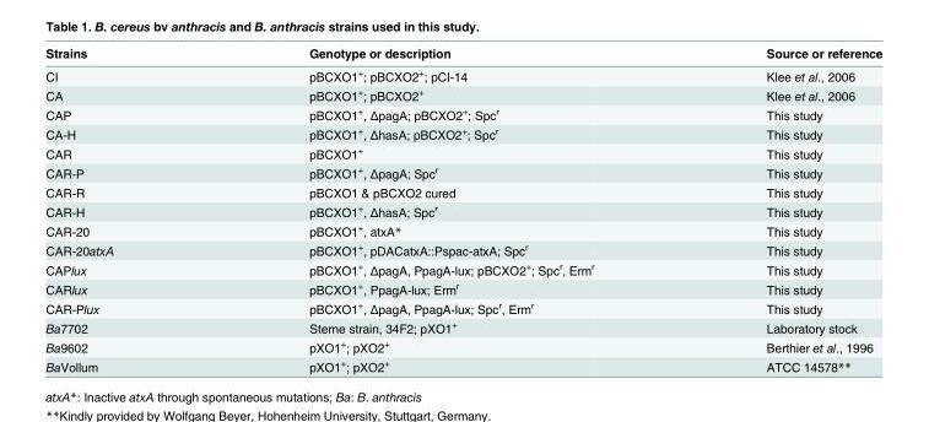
<table><thead><tr><td>Strains</td><td>Genotype or description</td><td>Source or reference</td></tr></thead><tbody><tr><td>CI</td><td>pBCXO1<sup>+</sup>; pBCXO2<sup>+</sup>; pCI-14</td><td>Klee et al., 2006</td></tr><tr><td>CA</td><td>pBCXO1<sup>+</sup>; pBCXO2<sup>+</sup></td><td>Klee et al., 2006</td></tr><tr><td>CAP</td><td>pBCXO1<sup>+</sup>, ΔpagA; pBCXO2<sup>+</sup>; Spc<sup>r</sup></td><td>This study</td></tr><tr><td>CA-H</td><td>pBCXO1<sup>+</sup>, ΔhasA; pBCXO2<sup>+</sup>; Spc<sup>r</sup></td><td>This study</td></tr><tr><td>CAR</td><td>pBCXO1<sup>+</sup></td><td>This study</td></tr><tr><td>CAR-P</td><td>pBCXO1<sup>+</sup>, ΔpagA; Spc<sup>r</sup></td><td>This study</td></tr><tr><td>CAR-R</td><td>pBCXO1 &amp; pBCXO2 cured</td><td>This study</td></tr><tr><td>CAR-H</td><td>pBCXO1<sup>+</sup>, ΔhasA; Spc<sup>r</sup></td><td>This study</td></tr><tr><td>CAR-20</td><td>pBCXO1<sup>+</sup>, atxA*</td><td>This study</td></tr><tr><td>CAR-20atxA</td><td>pBCXO1<sup>+</sup>, pDACatxA::Pspac-atxA; Spc<sup>r</sup></td><td>This study</td></tr><tr><td>CAPlux</td><td>pBCXO1<sup>+</sup>, ΔpagA, PpagA-lux; pBCXO2<sup>+</sup>; Spc<sup>r</sup>, Erm<sup>r</sup></td><td>This study</td></tr><tr><td>CARlux</td><td>pBCXO1<sup>+</sup>, PpagA-lux; Erm<sup>r</sup></td><td>This study</td></tr><tr><td>CAR-Plux</td><td>pBCXO1<sup>+</sup>, ΔpagA, PpagA-lux; Spc<sup>r</sup>, Erm<sup>r</sup></td><td>This study</td></tr><tr><td>Ba7702</td><td>Sterne strain, 34F2; pXO1<sup>+</sup></td><td>Laboratory stock</td></tr><tr><td>Ba9602</td><td>pXO1<sup>+</sup>; pXO2<sup>+</sup></td><td>Berthier et al., 1996</td></tr><tr><td>BaVollum</td><td>pXO1<sup>+</sup>; pXO2<sup>+</sup></td><td>ATCC 14578**</td></tr></tbody></table>